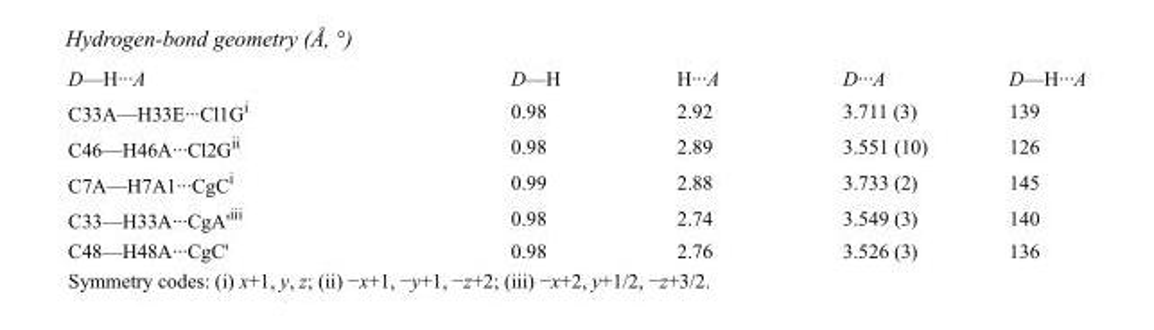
<table><tbody><tr><td>D—H···A</td><td>D—H</td><td>H···A</td><td>D···A</td><td>D—H···A</td></tr><tr><td>C33A—H33E···Cl1G<sup>i</sup></td><td>0.98</td><td>2.92</td><td>3.711 (3)</td><td>139</td></tr><tr><td>C46—H46A···Cl2G<sup>ii</sup></td><td>0.98</td><td>2.89</td><td>3.551 (10)</td><td>126</td></tr><tr><td>C7A—H7A1···CgC<sup>i</sup></td><td>0.99</td><td>2.88</td><td>3.733 (2)</td><td>145</td></tr><tr><td>C33—H33A···CgA&#x27;<sup>iii</sup></td><td>0.98</td><td>2.74</td><td>3.549 (3)</td><td>140</td></tr><tr><td>C48—H48A···CgC&#x27;</td><td>0.98</td><td>2.76</td><td>3.526 (3)</td><td>136</td></tr></tbody></table>